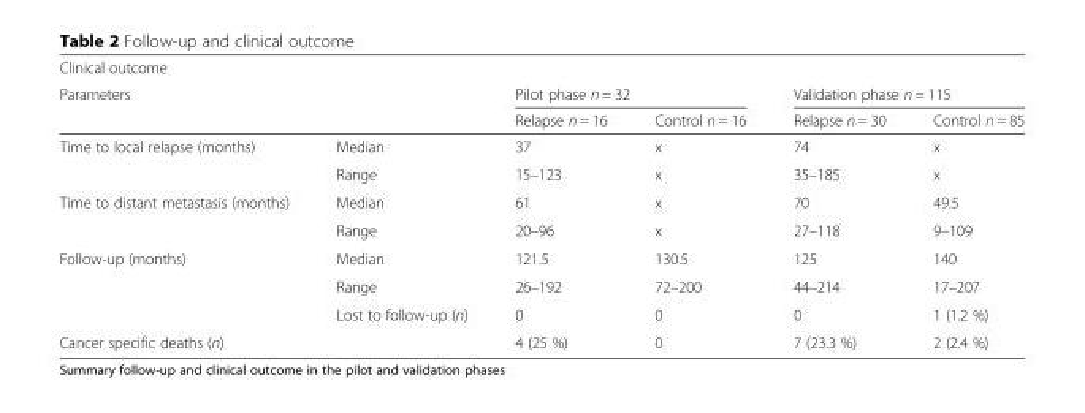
<table><thead><tr><td>Clinical outcome</td><td></td><td></td><td></td><td></td><td></td></tr><tr><td rowspan="2" colspan="2">Parameters</td><td colspan="2">Pilot phase n = 32</td><td colspan="2">Validation phase n = 115</td></tr><tr><td>Relapse n = 16</td><td>Control n = 16</td><td>Relapse n = 30</td><td>Control n = 85</td></tr></thead><tbody><tr><td rowspan="2">Time to local relapse (months)</td><td>Median</td><td>37</td><td>x</td><td>74</td><td>x</td></tr><tr><td>Range</td><td>15–123</td><td>x</td><td>35–185</td><td>x</td></tr><tr><td rowspan="2">Time to distant metastasis (months)</td><td>Median</td><td>61</td><td>x</td><td>70</td><td>49.5</td></tr><tr><td>Range</td><td>20–96</td><td>x</td><td>27–118</td><td>9–109</td></tr><tr><td rowspan="3">Follow-up (months)</td><td>Median</td><td>121.5</td><td>130.5</td><td>125</td><td>140</td></tr><tr><td>Range</td><td>26–192</td><td>72–200</td><td>44–214</td><td>17–207</td></tr><tr><td>Lost to follow-up (n)</td><td>0</td><td>0</td><td>0</td><td>1 (1.2 %)</td></tr><tr><td>Cancer specific deaths (n)</td><td></td><td>4 (25 %)</td><td>0</td><td>7 (23.3 %)</td><td>2 (2.4 %)</td></tr></tbody></table>